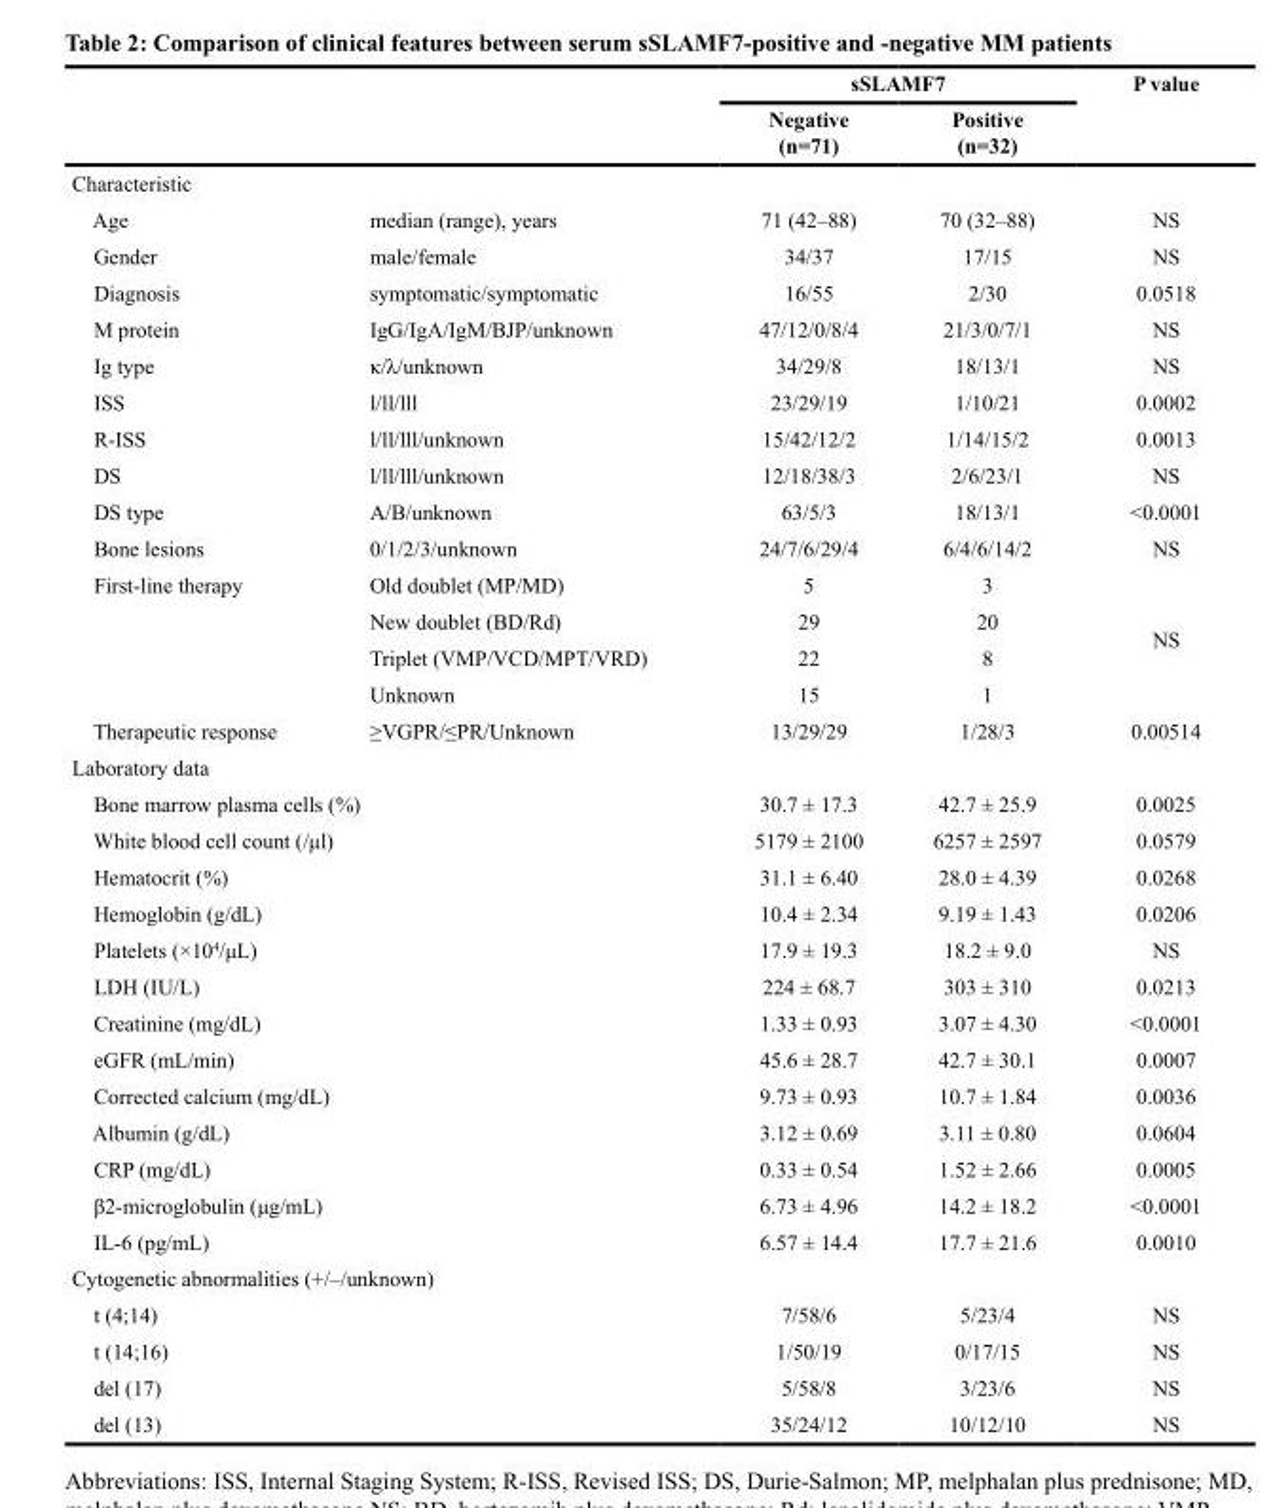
<table><thead><tr><td rowspan="2"></td><td rowspan="2"></td><td colspan="2">sSLAMF7</td><td rowspan="2">P value</td></tr><tr><td>Negative (n=71)</td><td>Positive (n=32)</td></tr></thead><tbody><tr><td colspan="5">Characteristic</td></tr><tr><td>Age</td><td>median (range), years</td><td>71 (42–88)</td><td>70 (32–88)</td><td>NS</td></tr><tr><td>Gender</td><td>male/female</td><td>34/37</td><td>17/15</td><td>NS</td></tr><tr><td>Diagnosis</td><td>symptomatic/symptomatic</td><td>16/55</td><td>2/30</td><td>0.0518</td></tr><tr><td>M protein</td><td>IgG/IgA/IgM/BJP/unknown</td><td>47/12/0/8/4</td><td>21/3/0/7/1</td><td>NS</td></tr><tr><td>Ig type</td><td>κ/λ/unknown</td><td>34/29/8</td><td>18/13/1</td><td>NS</td></tr><tr><td>ISS</td><td>l/ll/lll</td><td>23/29/19</td><td>1/10/21</td><td>0.0002</td></tr><tr><td>R-ISS</td><td>l/ll/lll/unknown</td><td>15/42/12/2</td><td>1/14/15/2</td><td>0.0013</td></tr><tr><td>DS</td><td>l/ll/lll/unknown</td><td>12/18/38/3</td><td>2/6/23/1</td><td>NS</td></tr><tr><td>DS type</td><td>A/B/unknown</td><td>63/5/3</td><td>18/13/1</td><td>&lt;0.0001</td></tr><tr><td>Bone lesions</td><td>0/1/2/3/unknown</td><td>24/7/6/29/4</td><td>6/4/6/14/2</td><td>NS</td></tr><tr><td rowspan="4">First-line therapy</td><td>Old doublet (MP/MD)</td><td>5</td><td>3</td><td rowspan="4">NS</td></tr><tr><td>New doublet (BD/Rd)</td><td>29</td><td>20</td></tr><tr><td>Triplet (VMP/VCD/MPT/VRD)</td><td>22</td><td>8</td></tr><tr><td>Unknown</td><td>15</td><td>1</td></tr><tr><td>Therapeutic response</td><td>≥VGPR/≤PR/Unknown</td><td>13/29/29</td><td>1/28/3</td><td>0.00514</td></tr><tr><td colspan="5">Laboratory data</td></tr><tr><td colspan="2">Bone marrow plasma cells (%)</td><td>30.7 ± 17.3</td><td>42.7 ± 25.9</td><td>0.0025</td></tr><tr><td colspan="2">White blood cell count (/μl)</td><td>5179 ± 2100</td><td>6257 ± 2597</td><td>0.0579</td></tr><tr><td colspan="2">Hematocrit (%)</td><td>31.1 ± 6.40</td><td>28.0 ± 4.39</td><td>0.0268</td></tr><tr><td colspan="2">Hemoglobin (g/dL)</td><td>10.4 ± 2.34</td><td>9.19 ± 1.43</td><td>0.0206</td></tr><tr><td colspan="2">Platelets (×10<sup>4</sup>/μL)</td><td>17.9 ± 19.3</td><td>18.2 ± 9.0</td><td>NS</td></tr><tr><td colspan="2">LDH (IU/L)</td><td>224 ± 68.7</td><td>303 ± 310</td><td>0.0213</td></tr><tr><td colspan="2">Creatinine (mg/dL)</td><td>1.33 ± 0.93</td><td>3.07 ± 4.30</td><td>&lt;0.0001</td></tr><tr><td colspan="2">eGFR (mL/min)</td><td>45.6 ± 28.7</td><td>42.7 ± 30.1</td><td>0.0007</td></tr><tr><td colspan="2">Corrected calcium (mg/dL)</td><td>9.73 ± 0.93</td><td>10.7 ± 1.84</td><td>0.0036</td></tr><tr><td colspan="2">Albumin (g/dL)</td><td>3.12 ± 0.69</td><td>3.11 ± 0.80</td><td>0.0604</td></tr><tr><td colspan="2">CRP (mg/dL)</td><td>0.33 ± 0.54</td><td>1.52 ± 2.66</td><td>0.0005</td></tr><tr><td colspan="2">β2-microglobulin (μg/mL)</td><td>6.73 ± 4.96</td><td>14.2 ± 18.2</td><td>&lt;0.0001</td></tr><tr><td colspan="2">IL-6 (pg/mL)</td><td>6.57 ± 14.4</td><td>17.7 ± 21.6</td><td>0.0010</td></tr><tr><td colspan="5">Cytogenetic abnormalities (+/–/unknown)</td></tr><tr><td>t (4;14)</td><td></td><td>7/58/6</td><td>5/23/4</td><td>NS</td></tr><tr><td>t (14;16)</td><td></td><td>1/50/19</td><td>0/17/15</td><td>NS</td></tr><tr><td>del (17)</td><td></td><td>5/58/8</td><td>3/23/6</td><td>NS</td></tr><tr><td>del (13)</td><td></td><td>35/24/12</td><td>10/12/10</td><td>NS</td></tr></tbody></table>